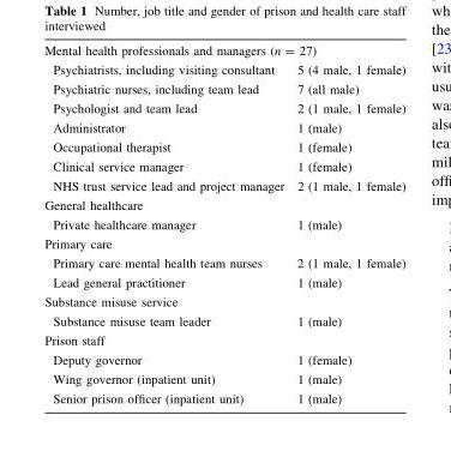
<table><tbody><tr><td colspan="2">Mental health professionals and managers (n = 27)</td></tr><tr><td>Psychiatrists, including visiting consultant</td><td>5 (4 male, 1 female)</td></tr><tr><td>Psychiatric nurses, including team lead</td><td>7 (all male)</td></tr><tr><td>Psychologist and team lead</td><td>2 (1 male, 1 female)</td></tr><tr><td>Administrator</td><td>1 (male)</td></tr><tr><td>Occupational therapist</td><td>1 (female)</td></tr><tr><td>Clinical service manager</td><td>1 (female)</td></tr><tr><td>NHS trust service lead and project manager</td><td>2 (1 male, 1 female)</td></tr><tr><td colspan="2">General healthcare</td></tr><tr><td>Private healthcare manager</td><td>1 (male)</td></tr><tr><td colspan="2">Primary care</td></tr><tr><td>Primary care mental health team nurses</td><td>2 (1 male, 1 female)</td></tr><tr><td>Lead general practitioner</td><td>1 (male)</td></tr><tr><td colspan="2">Substance misuse service</td></tr><tr><td>Substance misuse team leader</td><td>1 (male)</td></tr><tr><td colspan="2">Prison staff</td></tr><tr><td>Deputy governor</td><td>1 (female)</td></tr><tr><td>Wing governor (inpatient unit)</td><td>1 (male)</td></tr><tr><td>Senior prison officer (inpatient unit)</td><td>1 (male)</td></tr></tbody></table>